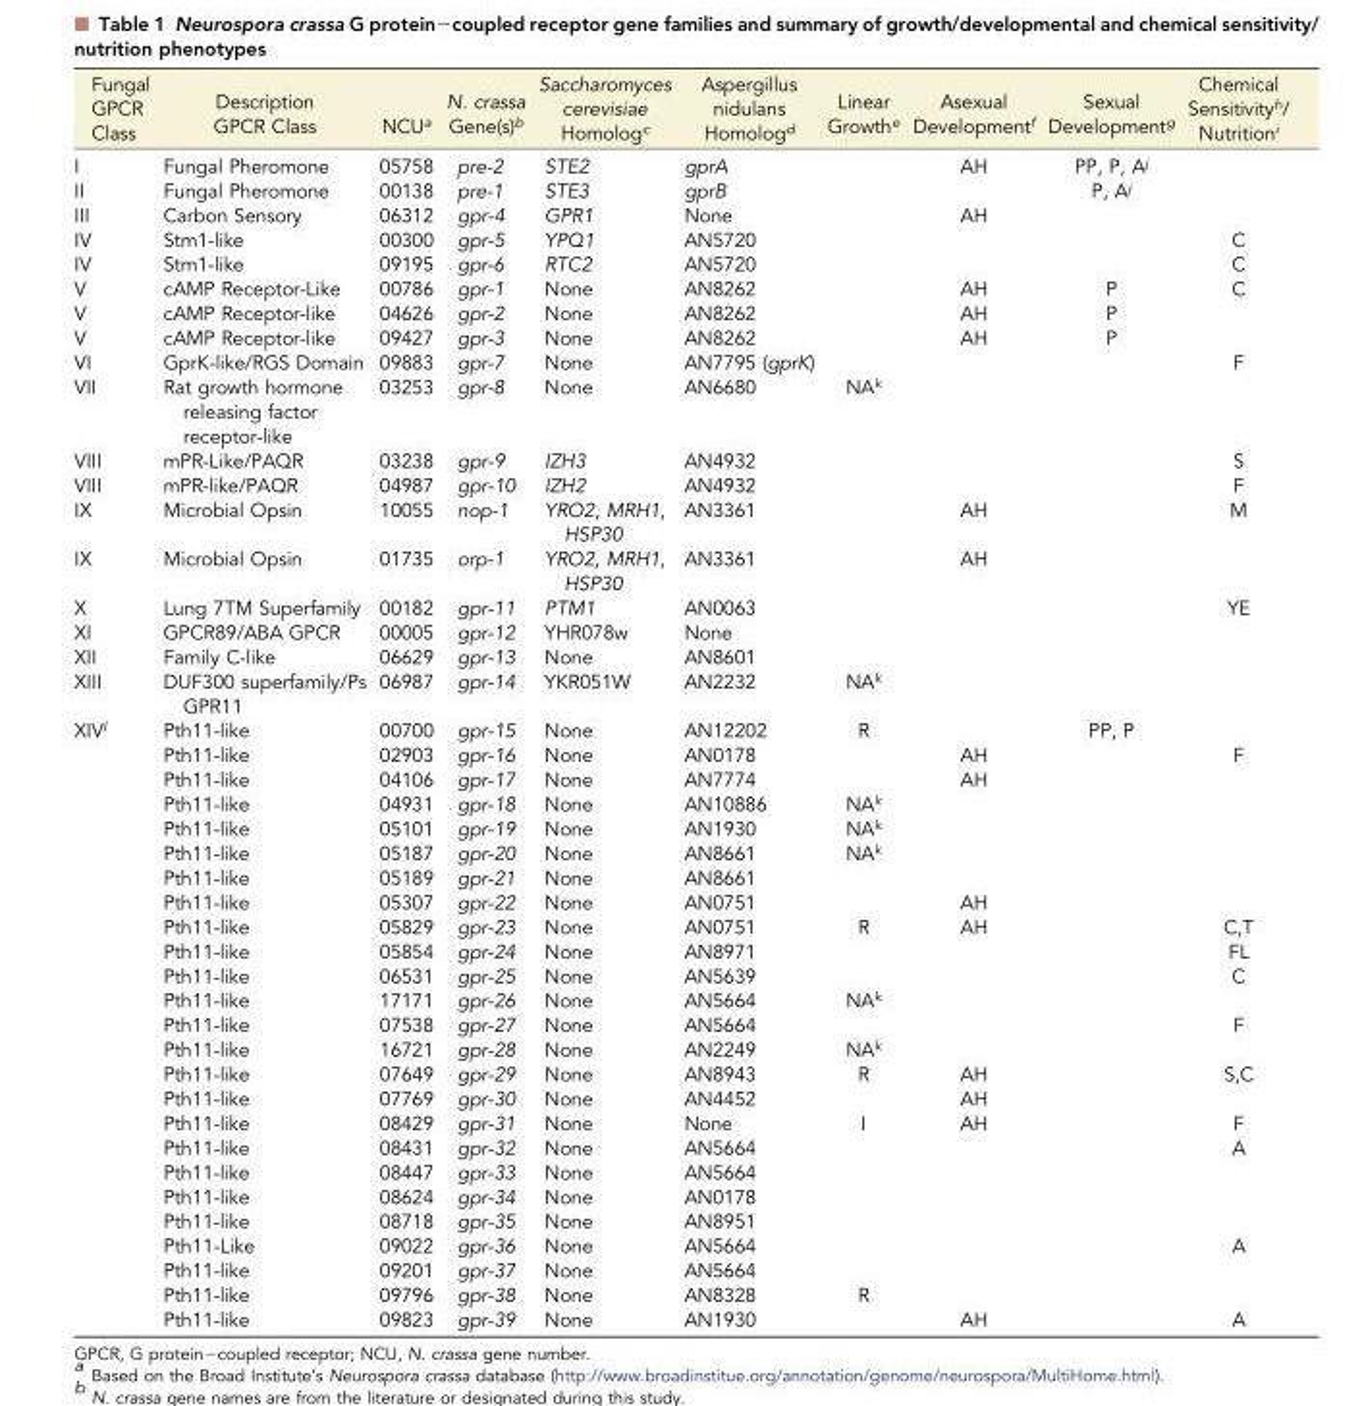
<table><thead><tr><td>Fungal GPCR Class</td><td>Description GPCR Class</td><td>NCU<sup>a</sup></td><td>N. crassa Gene(s)<sup>b</sup></td><td>Saccharomyces cerevisiae Homolog<sup>c</sup></td><td>Aspergillus nidulans Homolog<sup>d</sup></td><td>Linear Growth<sup>e</sup></td><td>Asexual Development<sup>f</sup></td><td>Sexual Development<sup>g</sup></td><td>Chemical Sensitivity<sup>h</sup>/ Nutrition<sup>i</sup></td></tr></thead><tbody><tr><td>I</td><td>Fungal Pheromone</td><td>05758</td><td>pre-2</td><td>STE2</td><td>gprA</td><td></td><td>AH</td><td>PP, P, A<sup>j</sup></td><td></td></tr><tr><td>II</td><td>Fungal Pheromone</td><td>00138</td><td>pre-1</td><td>STE3</td><td>gprB</td><td></td><td></td><td>P, A<sup>j</sup></td><td></td></tr><tr><td>III</td><td>Carbon Sensory</td><td>06312</td><td>gpr-4</td><td>GPR1</td><td>None</td><td></td><td>AH</td><td></td><td></td></tr><tr><td>IV</td><td>Stm1-like</td><td>00300</td><td>gpr-5</td><td>YPQ1</td><td>AN5720</td><td></td><td></td><td></td><td>C</td></tr><tr><td>IV</td><td>Stm1-like</td><td>09195</td><td>gpr-6</td><td>RTC2</td><td>AN5720</td><td></td><td></td><td></td><td>C</td></tr><tr><td>V</td><td>cAMP Receptor-Like</td><td>00786</td><td>gpr-1</td><td>None</td><td>AN8262</td><td></td><td>AH</td><td>P</td><td>C</td></tr><tr><td>V</td><td>cAMP Receptor-like</td><td>04626</td><td>gpr-2</td><td>None</td><td>AN8262</td><td></td><td>AH</td><td>P</td><td></td></tr><tr><td>V</td><td>cAMP Receptor-like</td><td>09427</td><td>gpr-3</td><td>None</td><td>AN8262</td><td></td><td>AH</td><td>P</td><td></td></tr><tr><td>VI</td><td>GprK-like/RGS Domain</td><td>09883</td><td>gpr-7</td><td>None</td><td>AN7795 (gprK)</td><td></td><td></td><td></td><td>F</td></tr><tr><td>VII</td><td>Rat growth hormone releasing factor receptor-like</td><td>03253</td><td>gpr-8</td><td>None</td><td>AN6680</td><td>NA<sup>k</sup></td><td></td><td></td><td></td></tr><tr><td>VIII</td><td>mPR-Like/PAQR</td><td>03238</td><td>gpr-9</td><td>IZH3</td><td>AN4932</td><td></td><td></td><td></td><td>S</td></tr><tr><td>VIII</td><td>mPR-like/PAQR</td><td>04987</td><td>gpr-10</td><td>IZH2</td><td>AN4932</td><td></td><td></td><td></td><td>F</td></tr><tr><td>IX</td><td>Microbial Opsin</td><td>10055</td><td>nop-1</td><td>YRO2, MRH1, HSP30</td><td>AN3361</td><td></td><td>AH</td><td></td><td>M</td></tr><tr><td>IX</td><td>Microbial Opsin</td><td>01735</td><td>orp-1</td><td>YRO2, MRH1, HSP30</td><td>AN3361</td><td></td><td>AH</td><td></td><td></td></tr><tr><td>X</td><td>Lung 7TM Superfamily</td><td>00182</td><td>gpr-11</td><td>PTM1</td><td>AN0063</td><td></td><td></td><td></td><td>YE</td></tr><tr><td>XI</td><td>GPCR89/ABA GPCR</td><td>00005</td><td>gpr-12</td><td>YHR078w</td><td>None</td><td></td><td></td><td></td><td></td></tr><tr><td>XII</td><td>Family C-like</td><td>06629</td><td>gpr-13</td><td>None</td><td>AN8601</td><td></td><td></td><td></td><td></td></tr><tr><td>XIII</td><td>DUF300 superfamily/Ps GPR11</td><td>06987</td><td>gpr-14</td><td>YKR051W</td><td>AN2232</td><td>NA<sup>k</sup></td><td></td><td></td><td></td></tr><tr><td rowspan="25">XIV<sup>l</sup></td><td>Pth11-like</td><td>00700</td><td>gpr-15</td><td>None</td><td>AN12202</td><td>R</td><td></td><td>PP, P</td><td></td></tr><tr><td>Pth11-like</td><td>02903</td><td>gpr-16</td><td>None</td><td>AN0178</td><td></td><td>AH</td><td></td><td>F</td></tr><tr><td>Pth11-like</td><td>04106</td><td>gpr-17</td><td>None</td><td>AN7774</td><td></td><td>AH</td><td></td><td></td></tr><tr><td>Pth11-like</td><td>04931</td><td>gpr-18</td><td>None</td><td>AN10886</td><td>NA<sup>k</sup></td><td></td><td></td><td></td></tr><tr><td>Pth11-like</td><td>05101</td><td>gpr-19</td><td>None</td><td>AN1930</td><td>NA<sup>k</sup></td><td></td><td></td><td></td></tr><tr><td>Pth11-like</td><td>05187</td><td>gpr-20</td><td>None</td><td>AN8661</td><td>NA<sup>k</sup></td><td></td><td></td><td></td></tr><tr><td>Pth11-like</td><td>05189</td><td>gpr-21</td><td>None</td><td>AN8661</td><td></td><td></td><td></td><td></td></tr><tr><td>Pth11-like</td><td>05307</td><td>gpr-22</td><td>None</td><td>AN0751</td><td></td><td>AH</td><td></td><td></td></tr><tr><td>Pth11-like</td><td>05829</td><td>gpr-23</td><td>None</td><td>AN0751</td><td>R</td><td>AH</td><td></td><td>C,T</td></tr><tr><td>Pth11-like</td><td>05854</td><td>gpr-24</td><td>None</td><td>AN8971</td><td></td><td></td><td></td><td>FL</td></tr><tr><td>Pth11-like</td><td>06531</td><td>gpr-25</td><td>None</td><td>AN5639</td><td></td><td></td><td></td><td>C</td></tr><tr><td>Pth11-like</td><td>17171</td><td>gpr-26</td><td>None</td><td>AN5664</td><td>NA<sup>k</sup></td><td></td><td></td><td></td></tr><tr><td>Pth11-like</td><td>07538</td><td>gpr-27</td><td>None</td><td>AN5664</td><td></td><td></td><td></td><td>F</td></tr><tr><td>Pth11-like</td><td>16721</td><td>gpr-28</td><td>None</td><td>AN2249</td><td>NA<sup>k</sup></td><td></td><td></td><td></td></tr><tr><td>Pth11-like</td><td>07649</td><td>gpr-29</td><td>None</td><td>AN8943</td><td>R</td><td>AH</td><td></td><td>S,C</td></tr><tr><td>Pth11-like</td><td>07769</td><td>gpr-30</td><td>None</td><td>AN4452</td><td></td><td>AH</td><td></td><td></td></tr><tr><td>Pth11-like</td><td>08429</td><td>gpr-31</td><td>None</td><td>None</td><td>I</td><td>AH</td><td></td><td>F</td></tr><tr><td>Pth11-like</td><td>08431</td><td>gpr-32</td><td>None</td><td>AN5664</td><td></td><td></td><td></td><td>A</td></tr><tr><td>Pth11-like</td><td>08447</td><td>gpr-33</td><td>None</td><td>AN5664</td><td></td><td></td><td></td><td></td></tr><tr><td>Pth11-like</td><td>08624</td><td>gpr-34</td><td>None</td><td>AN0178</td><td></td><td></td><td></td><td></td></tr><tr><td>Pth11-like</td><td>08718</td><td>gpr-35</td><td>None</td><td>AN8951</td><td></td><td></td><td></td><td></td></tr><tr><td>Pth11-Like</td><td>09022</td><td>gpr-36</td><td>None</td><td>AN5664</td><td></td><td></td><td></td><td>A</td></tr><tr><td>Pth11-like</td><td>09201</td><td>gpr-37</td><td>None</td><td>AN5664</td><td></td><td></td><td></td><td></td></tr><tr><td>Pth11-like</td><td>09796</td><td>gpr-38</td><td>None</td><td>AN8328</td><td>R</td><td></td><td></td><td></td></tr><tr><td>Pth11-like</td><td>09823</td><td>gpr-39</td><td>None</td><td>AN1930</td><td></td><td>AH</td><td></td><td>A</td></tr></tbody></table>